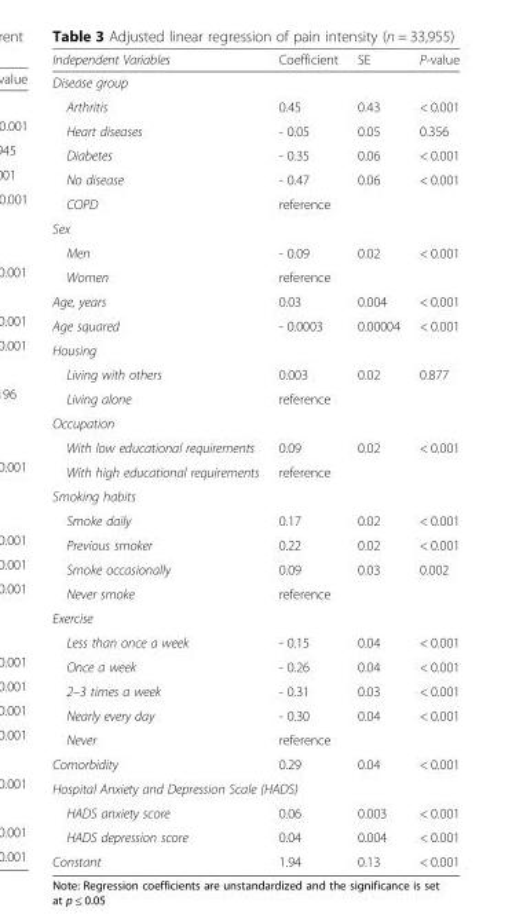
<table><thead><tr><td>Independent Variables</td><td>Coefficient</td><td>SE</td><td>P-value</td></tr></thead><tbody><tr><td colspan="4">Disease group</td></tr><tr><td>Arthritis</td><td>0.45</td><td>0.43</td><td>&lt; 0.001</td></tr><tr><td>Heart diseases</td><td>- 0.05</td><td>0.05</td><td>0.356</td></tr><tr><td>Diabetes</td><td>- 0.35</td><td>0.06</td><td>&lt; 0.001</td></tr><tr><td>No disease</td><td>- 0.47</td><td>0.06</td><td>&lt; 0.001</td></tr><tr><td>COPD</td><td colspan="3">reference</td></tr><tr><td colspan="4">Sex</td></tr><tr><td>Men</td><td>- 0.09</td><td>0.02</td><td>&lt; 0.001</td></tr><tr><td>Women</td><td colspan="3">reference</td></tr><tr><td>Age, years</td><td>0.03</td><td>0.004</td><td>&lt; 0.001</td></tr><tr><td>Age squared</td><td>- 0.0003</td><td>0.00004</td><td>&lt; 0.001</td></tr><tr><td colspan="4">Housing</td></tr><tr><td>Living with others</td><td>0.003</td><td>0.02</td><td>0.877</td></tr><tr><td>Living alone</td><td>reference</td><td></td><td></td></tr><tr><td colspan="4">Occupation</td></tr><tr><td>With low educational requirements</td><td>0.09</td><td>0.02</td><td>&lt; 0.001</td></tr><tr><td>With high educational requirements</td><td colspan="2">reference</td><td></td></tr><tr><td colspan="4">Smoking habits</td></tr><tr><td>Smoke daily</td><td>0.17</td><td>0.02</td><td>&lt; 0.001</td></tr><tr><td>Previous smoker</td><td>0.22</td><td>0.02</td><td>&lt; 0.001</td></tr><tr><td>Smoke occasionally</td><td>0.09</td><td>0.03</td><td>0.002</td></tr><tr><td>Never smoke</td><td colspan="2">reference</td><td></td></tr><tr><td colspan="4">Exercise</td></tr><tr><td>Less than once a week</td><td>- 0.15</td><td>0.04</td><td>&lt; 0.001</td></tr><tr><td>Once a week</td><td>- 0.26</td><td>0.04</td><td>&lt; 0.001</td></tr><tr><td>2–3 times a week</td><td>- 0.31</td><td>0.03</td><td>&lt; 0.001</td></tr><tr><td>Nearly every day</td><td>- 0.30</td><td>0.04</td><td>&lt; 0.001</td></tr><tr><td>Never</td><td colspan="2">reference</td><td></td></tr><tr><td>Comorbidity</td><td>0.29</td><td>0.04</td><td>&lt; 0.001</td></tr><tr><td colspan="4">Hospital Anxiety and Depression Scale (HADS)</td></tr><tr><td>HADS anxiety score</td><td>0.06</td><td>0.003</td><td>&lt; 0.001</td></tr><tr><td>HADS depression score</td><td>0.04</td><td>0.004</td><td>&lt; 0.001</td></tr><tr><td>Constant</td><td>1.94</td><td>0.13</td><td>&lt; 0.001</td></tr></tbody></table>